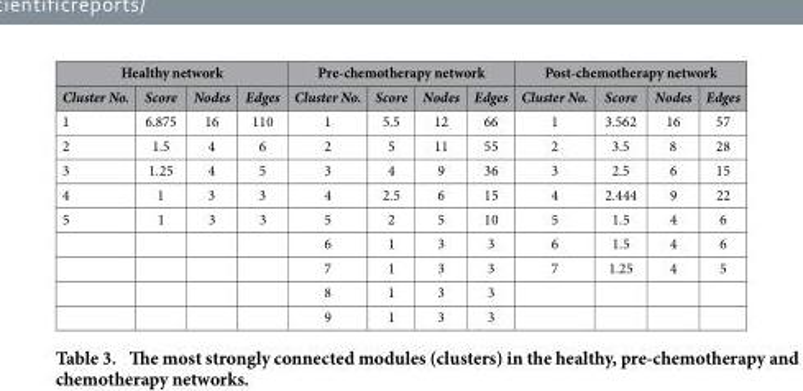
<table><thead><tr><td colspan="4">Healthy network</td><td colspan="4">Pre-chemotherapy network</td><td colspan="4">Post-chemotherapy network</td></tr><tr><td>Cluster No.</td><td>Score</td><td>Nodes</td><td>Edges</td><td>Cluster No.</td><td>Score</td><td>Nodes</td><td>Edges</td><td>Cluster No.</td><td>Score</td><td>Nodes</td><td>Edges</td></tr></thead><tbody><tr><td>1</td><td>6.875</td><td>16</td><td>110</td><td>1</td><td>5.5</td><td>12</td><td>66</td><td>1</td><td>3.562</td><td>16</td><td>57</td></tr><tr><td>2</td><td>1.5</td><td>4</td><td>6</td><td>2</td><td>5</td><td>11</td><td>55</td><td>2</td><td>3.5</td><td>8</td><td>28</td></tr><tr><td>3</td><td>1.25</td><td>4</td><td>5</td><td>3</td><td>4</td><td>9</td><td>36</td><td>3</td><td>2.5</td><td>6</td><td>15</td></tr><tr><td>4</td><td>1</td><td>3</td><td>3</td><td>4</td><td>2.5</td><td>6</td><td>15</td><td>4</td><td>2.444</td><td>9</td><td>22</td></tr><tr><td rowspan="5">5</td><td>1</td><td>3</td><td>3</td><td>5</td><td>2</td><td>5</td><td>10</td><td>5</td><td>1.5</td><td>4</td><td>6</td></tr><tr><td></td><td></td><td></td><td>6</td><td>1</td><td>3</td><td>3</td><td>6</td><td>1.5</td><td>4</td><td>6</td></tr><tr><td></td><td></td><td></td><td>7</td><td>1</td><td>3</td><td>3</td><td>7</td><td>1.25</td><td>4</td><td>5</td></tr><tr><td></td><td></td><td></td><td>8</td><td>1</td><td>3</td><td>3</td><td></td><td></td><td></td><td></td></tr><tr><td></td><td></td><td></td><td>9</td><td>1</td><td>3</td><td>3</td><td></td><td></td><td></td><td></td></tr></tbody></table>